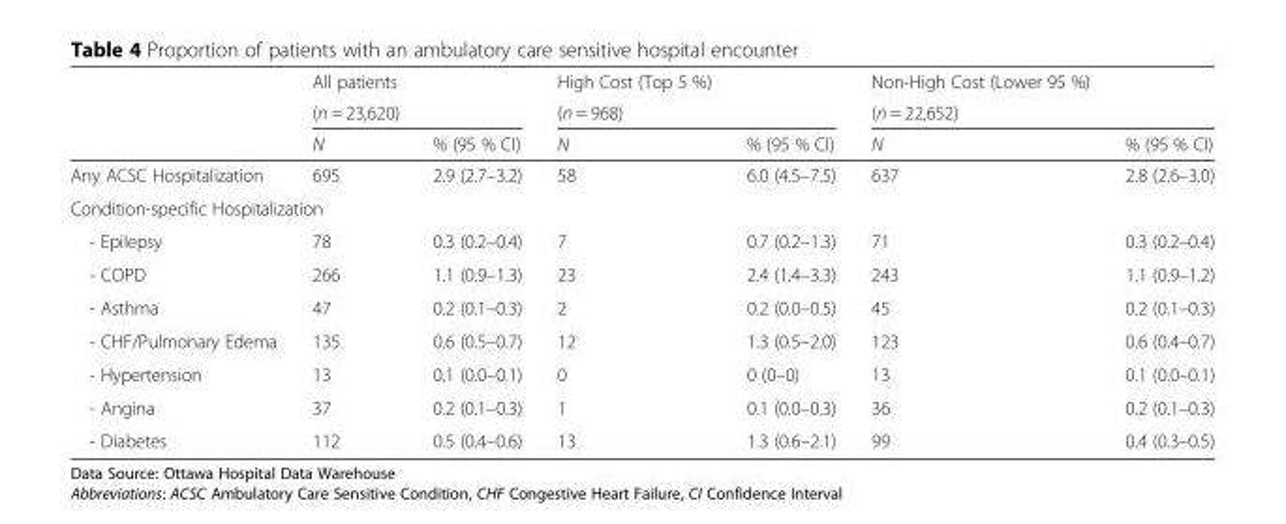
<table><thead><tr><td rowspan="3"></td><td>All patients</td><td></td><td>High Cost (Top 5 %)</td><td></td><td>Non-High Cost (Lower 95 %)</td><td></td></tr><tr><td colspan="2">(n = 23,620)</td><td colspan="2">(n = 968)</td><td colspan="2">(n = 22,652)</td></tr><tr><td>N</td><td>% (95 % CI)</td><td>N</td><td>% (95 % CI)</td><td>N</td><td>% (95 % CI)</td></tr></thead><tbody><tr><td>Any ACSC Hospitalization</td><td>695</td><td>2.9 (2.7–3.2)</td><td>58</td><td>6.0 (4.5–7.5)</td><td>637</td><td>2.8 (2.6–3.0)</td></tr><tr><td colspan="7">Condition-specific Hospitalization</td></tr><tr><td>- Epilepsy</td><td>78</td><td>0.3 (0.2–0.4)</td><td>7</td><td>0.7 (0.2–1.3)</td><td>71</td><td>0.3 (0.2–0.4)</td></tr><tr><td>- COPD</td><td>266</td><td>1.1 (0.9–1.3)</td><td>23</td><td>2.4 (1.4–3.3)</td><td>243</td><td>1.1 (0.9–1.2)</td></tr><tr><td>- Asthma</td><td>47</td><td>0.2 (0.1–0.3)</td><td>2</td><td>0.2 (0.0–0.5)</td><td>45</td><td>0.2 (0.1–0.3)</td></tr><tr><td>- CHF/Pulmonary Edema</td><td>135</td><td>0.6 (0.5–0.7)</td><td>12</td><td>1.3 (0.5–2.0)</td><td>123</td><td>0.6 (0.4–0.7)</td></tr><tr><td>- Hypertension</td><td>13</td><td>0.1 (0.0–0.1)</td><td>0</td><td>0 (0–0)</td><td>13</td><td>0.1 (0.0–0.1)</td></tr><tr><td>- Angina</td><td>37</td><td>0.2 (0.1–0.3)</td><td>1</td><td>0.1 (0.0–0.3)</td><td>36</td><td>0.2 (0.1–0.3)</td></tr><tr><td>- Diabetes</td><td>112</td><td>0.5 (0.4–0.6)</td><td>13</td><td>1.3 (0.6–2.1)</td><td>99</td><td>0.4 (0.3–0.5)</td></tr></tbody></table>